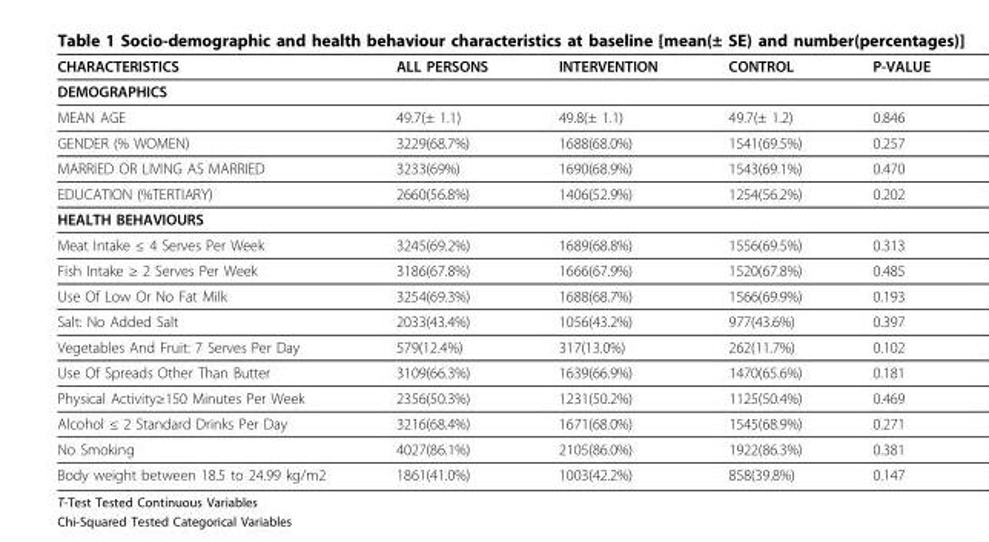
<table><thead><tr><td>CHARACTERISTICS</td><td>ALL PERSONS</td><td>INTERVENTION</td><td>CONTROL</td><td>P-VALUE</td></tr></thead><tbody><tr><td colspan="5">DEMOGRAPHICS</td></tr><tr><td>MEAN AGE</td><td>49.7(± 1.1)</td><td>49.8(± 1.1)</td><td>49.7(± 1.2)</td><td>0.846</td></tr><tr><td>GENDER (% WOMEN)</td><td>3229(68.7%)</td><td>1688(68.0%)</td><td>1541(69.5%)</td><td>0.257</td></tr><tr><td>MARRIED OR LIVING AS MARRIED</td><td>3233(69%)</td><td>1690(68.9%)</td><td>1543(69.1%)</td><td>0.470</td></tr><tr><td>EDUCATION (%TERTIARY)</td><td>2660(56.8%)</td><td>1406(52.9%)</td><td>1254(56.2%)</td><td>0.202</td></tr><tr><td colspan="5">HEALTH BEHAVIOURS</td></tr><tr><td>Meat Intake ≤ 4 Serves Per Week</td><td>3245(69.2%)</td><td>1689(68.8%)</td><td>1556(69.5%)</td><td>0.313</td></tr><tr><td>Fish Intake ≥ 2 Serves Per Week</td><td>3186(67.8%)</td><td>1666(67.9%)</td><td>1520(67.8%)</td><td>0.485</td></tr><tr><td>Use Of Low Or No Fat Milk</td><td>3254(69.3%)</td><td>1688(68.7%)</td><td>1566(69.9%)</td><td>0.193</td></tr><tr><td>Salt: No Added Salt</td><td>2033(43.4%)</td><td>1056(43.2%)</td><td>977(43.6%)</td><td>0.397</td></tr><tr><td>Vegetables And Fruit: 7 Serves Per Day</td><td>579(12.4%)</td><td>317(13.0%)</td><td>262(11.7%)</td><td>0.102</td></tr><tr><td>Use Of Spreads Other Than Butter</td><td>3109(66.3%)</td><td>1639(66.9%)</td><td>1470(65.6%)</td><td>0.181</td></tr><tr><td>Physical Activity≥150 Minutes Per Week</td><td>2356(50.3%)</td><td>1231(50.2%)</td><td>1125(50.4%)</td><td>0.469</td></tr><tr><td>Alcohol ≤ 2 Standard Drinks Per Day</td><td>3216(68.4%)</td><td>1671(68.0%)</td><td>1545(68.9%)</td><td>0.271</td></tr><tr><td>No Smoking</td><td>4027(86.1%)</td><td>2105(86.0%)</td><td>1922(86.3%)</td><td>0.381</td></tr><tr><td>Body weight between 18.5 to 24.99 kg/m2</td><td>1861(41.0%)</td><td>1003(42.2%)</td><td>858(39.8%)</td><td>0.147</td></tr></tbody></table>